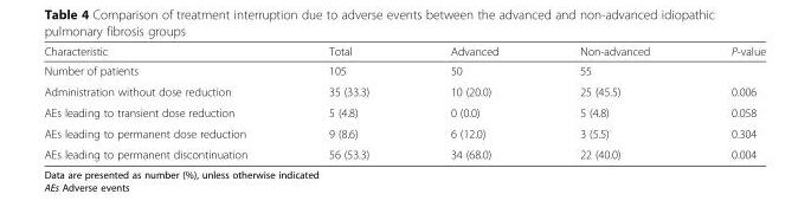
<table><thead><tr><td>Characteristic</td><td>Total</td><td>Advanced</td><td>Non-advanced</td><td>P-value</td></tr></thead><tbody><tr><td>Number of patients</td><td>105</td><td>50</td><td>55</td><td></td></tr><tr><td>Administration without dose reduction</td><td>35 (33.3)</td><td>10 (20.0)</td><td>25 (45.5)</td><td>0.006</td></tr><tr><td>AEs leading to transient dose reduction</td><td>5 (4.8)</td><td>0 (0.0)</td><td>5 (4.8)</td><td>0.058</td></tr><tr><td>AEs leading to permanent dose reduction</td><td>9 (8.6)</td><td>6 (12.0)</td><td>3 (5.5)</td><td>0.304</td></tr><tr><td>AEs leading to permanent discontinuation</td><td>56 (53.3)</td><td>34 (68.0)</td><td>22 (40.0)</td><td>0.004</td></tr></tbody></table>